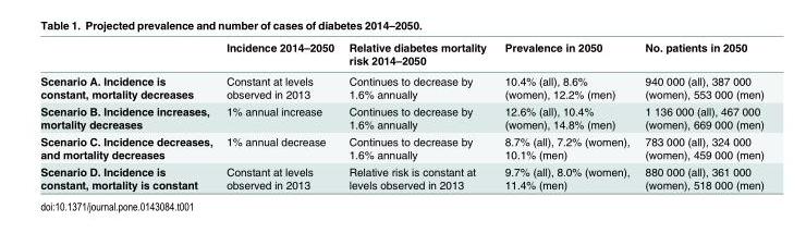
<table><thead><tr><td></td><td>Incidence 2014–2050</td><td>Relative diabetes mortality risk 2014–2050</td><td>Prevalence in 2050</td><td>No. patients in 2050</td></tr></thead><tbody><tr><td>Scenario A. Incidence is constant, mortality decreases</td><td>Constant at levels observed in 2013</td><td>Continues to decrease by 1.6% annually</td><td>10.4% (all), 8.6% (women), 12.2% (men)</td><td>940 000 (all), 387 000 (women), 553 000 (men)</td></tr><tr><td>Scenario B. Incidence increases, mortality decreases</td><td>1% annual increase</td><td>Continues to decrease by 1.6% annually</td><td>12.6% (all), 10.4% (women), 14.8% (men)</td><td>1 136 000 (all), 467 000 (women), 669 000 (men)</td></tr><tr><td>Scenario C. Incidence decreases, and mortality decreases</td><td>1% annual decrease</td><td>Continues to decrease by 1.6% annually</td><td>8.7% (all), 7.2% (women), 10.1% (men)</td><td>783 000 (all), 324 000 (women), 459 000 (men)</td></tr><tr><td>Scenario D. Incidence is constant, mortality is constant</td><td>Constant at levels observed in 2013</td><td>Relative risk is constant at levels observed in 2013</td><td>9.7% (all), 8.0% (women), 11.4% (men)</td><td>880 000 (all), 361 000 (women), 518 000 (men)</td></tr></tbody></table>